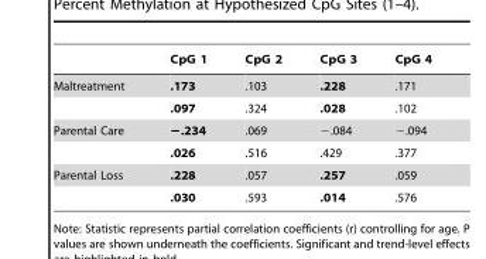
<table><thead><tr><td></td><td>CpG 1</td><td>CpG 2</td><td>CpG 3</td><td>CpG 4</td></tr></thead><tbody><tr><td rowspan="2">Maltreatment</td><td>.173</td><td>.103</td><td>.228</td><td>.171</td></tr><tr><td>.097</td><td>.324</td><td>.028</td><td>.102</td></tr><tr><td rowspan="2">Parental Care</td><td>−.234</td><td>.069</td><td>−.084</td><td>−.094</td></tr><tr><td>.026</td><td>.516</td><td>.429</td><td>.377</td></tr><tr><td rowspan="2">Parental Loss</td><td>.228</td><td>.057</td><td>.257</td><td>.059</td></tr><tr><td>.030</td><td>.593</td><td>.014</td><td>.576</td></tr></tbody></table>